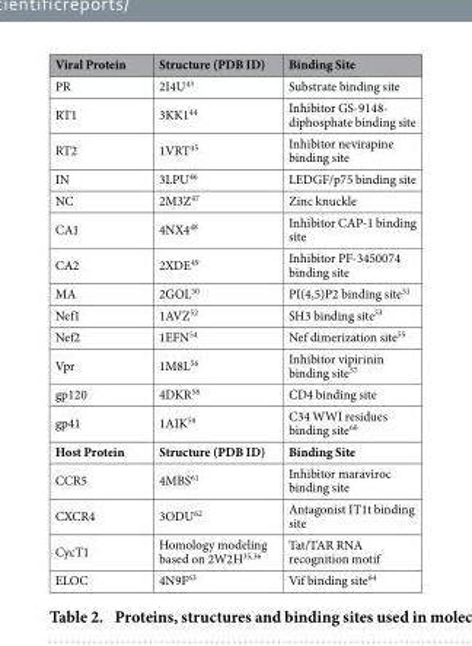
<table><thead><tr><td>Viral Protein</td><td>Structure (PDB ID)</td><td>Binding Site</td></tr></thead><tbody><tr><td>PR</td><td>2I4U<sup>43</sup></td><td>Substrate binding site</td></tr><tr><td>RT1</td><td>3KK1<sup>44</sup></td><td>Inhibitor GS-9148- diphosphate binding site</td></tr><tr><td>RT2</td><td>1VRT<sup>45</sup></td><td>Inhibitor nevirapine binding site</td></tr><tr><td>IN</td><td>3LPU<sup>46</sup></td><td>LEDGF/p75 binding site</td></tr><tr><td>NC</td><td>2M3Z<sup>47</sup></td><td>Zinc knuckle</td></tr><tr><td>CA1</td><td>4NX4<sup>48</sup></td><td>Inhibitor CAP-1 binding site</td></tr><tr><td>CA2</td><td>2XDE<sup>49</sup></td><td>Inhibitor PF-3450074 binding site</td></tr><tr><td>MA</td><td>2GOL<sup>50</sup></td><td>PI(4,5)P2 binding site<sup>51</sup></td></tr><tr><td>Nef1</td><td>1AVZ<sup>52</sup></td><td>SH3 binding site<sup>53</sup></td></tr><tr><td>Nef2</td><td>1EFN<sup>54</sup></td><td>Nef dimerization site<sup>55</sup></td></tr><tr><td>Vpr</td><td>1M8L<sup>56</sup></td><td>Inhibitor vipirinin binding site<sup>57</sup></td></tr><tr><td>gp120</td><td>4DKR<sup>58</sup></td><td>CD4 binding site</td></tr><tr><td>gp41</td><td>1AIK<sup>59</sup></td><td>C34 WWI residues binding site<sup>60</sup></td></tr><tr><td>Host Protein</td><td>Structure (PDB ID)</td><td>Binding Site</td></tr><tr><td>CCR5</td><td>4MBS<sup>61</sup></td><td>Inhibitor maraviroc binding site</td></tr><tr><td>CXCR4</td><td>3ODU<sup>62</sup></td><td>Antagonist IT1t binding site</td></tr><tr><td>CycT1</td><td>Homology modeling based on 2W2H<sup>35</sup>,<sup>36</sup></td><td>Tat/TAR RNA recognition motif</td></tr><tr><td>ELOC</td><td>4N9F<sup>63</sup></td><td>Vif binding site<sup>64</sup></td></tr></tbody></table>